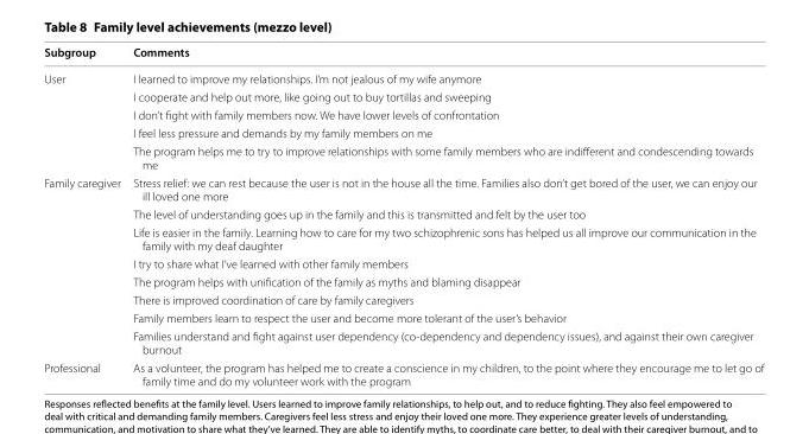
<table><thead><tr><td>Subgroup</td><td>Comments</td></tr></thead><tbody><tr><td rowspan="5">User</td><td>I learned to improve my relationships. I’m not jealous of my wife anymore</td></tr><tr><td>I cooperate and help out more, like going out to buy tortillas and sweeping</td></tr><tr><td>I don’t fight with family members now. We have lower levels of confrontation</td></tr><tr><td>I feel less pressure and demands by my family members on me</td></tr><tr><td>The program helps me to try to improve relationships with some family members who are indifferent and condescending towards me</td></tr><tr><td rowspan="8">Family caregiver</td><td>Stress relief: we can rest because the user is not in the house all the time. Families also don’t get bored of the user, we can enjoy our ill loved one more</td></tr><tr><td>The level of understanding goes up in the family and this is transmitted and felt by the user too</td></tr><tr><td>Life is easier in the family. Learning how to care for my two schizophrenic sons has helped us all improve our communication in the family with my deaf daughter</td></tr><tr><td>I try to share what I’ve learned with other family members</td></tr><tr><td>The program helps with unification of the family as myths and blaming disappear</td></tr><tr><td>There is improved coordination of care by family caregivers</td></tr><tr><td>Family members learn to respect the user and become more tolerant of the user’s behavior</td></tr><tr><td>Families understand and fight against user dependency (co-dependency and dependency issues), and against their own caregiver burnout</td></tr><tr><td>Professional</td><td>As a volunteer, the program has helped me to create a conscience in my children, to the point where they encourage me to let go of family time and do my volunteer work with the program</td></tr></tbody></table>